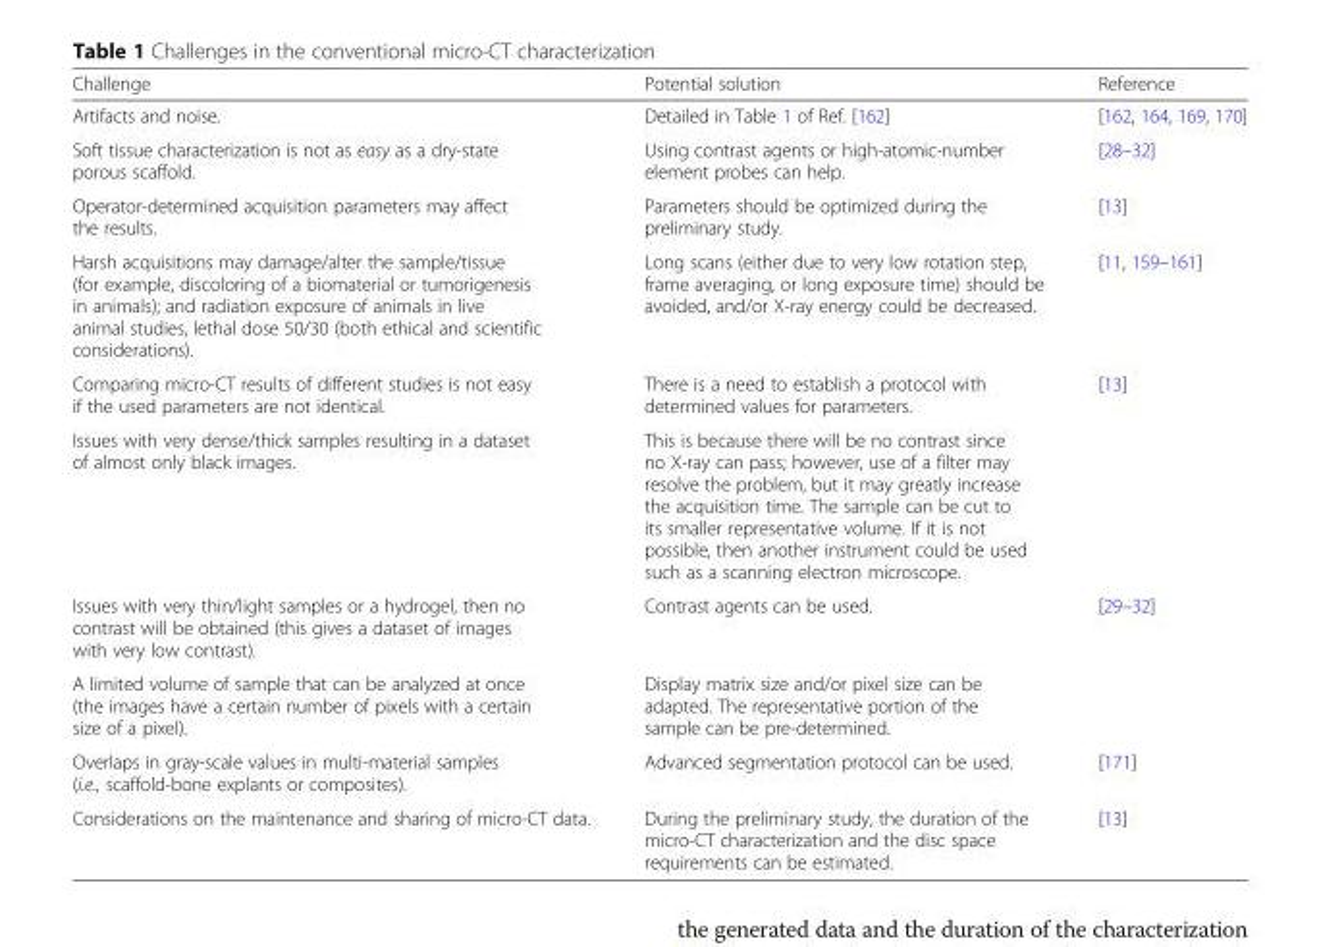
<table><thead><tr><td>Challenge</td><td>Potential solution</td><td>Reference</td></tr></thead><tbody><tr><td>Artifacts and noise.</td><td>Detailed in Table 1 of Ref. [162]</td><td>[162, 164, 169, 170]</td></tr><tr><td>Soft tissue characterization is not as easy as a dry-state porous scaffold.</td><td>Using contrast agents or high-atomic-number element probes can help.</td><td>[28–32]</td></tr><tr><td>Operator-determined acquisition parameters may affect the results.</td><td>Parameters should be optimized during the preliminary study.</td><td>[13]</td></tr><tr><td>Harsh acquisitions may damage/alter the sample/tissue (for example, discoloring of a biomaterial or tumorigenesis in animals); and radiation exposure of animals in live animal studies, lethal dose 50/30 (both ethical and scientific considerations).</td><td>Long scans (either due to very low rotation step, frame averaging, or long exposure time) should be avoided, and/or X-ray energy could be decreased.</td><td>[11, 159–161]</td></tr><tr><td>Comparing micro-CT results of different studies is not easy if the used parameters are not identical.</td><td>There is a need to establish a protocol with determined values for parameters.</td><td>[13]</td></tr><tr><td>Issues with very dense/thick samples resulting in a dataset of almost only black images.</td><td>This is because there will be no contrast since no X-ray can pass; however, use of a filter may resolve the problem, but it may greatly increase the acquisition time. The sample can be cut to its smaller representative volume. If it is not possible, then another instrument could be used such as a scanning electron microscope.</td><td></td></tr><tr><td>Issues with very thin/light samples or a hydrogel, then no contrast will be obtained (this gives a dataset of images with very low contrast).</td><td>Contrast agents can be used.</td><td>[29–32]</td></tr><tr><td>A limited volume of sample that can be analyzed at once (the images have a certain number of pixels with a certain size of a pixel).</td><td>Display matrix size and/or pixel size can be adapted. The representative portion of the sample can be pre-determined.</td><td></td></tr><tr><td>Overlaps in gray-scale values in multi-material samples (i.e., scaffold-bone explants or composites).</td><td>Advanced segmentation protocol can be used.</td><td>[171]</td></tr><tr><td>Considerations on the maintenance and sharing of micro-CT data.</td><td>During the preliminary study, the duration of the micro-CT characterization and the disc space requirements can be estimated.</td><td>[13]</td></tr></tbody></table>